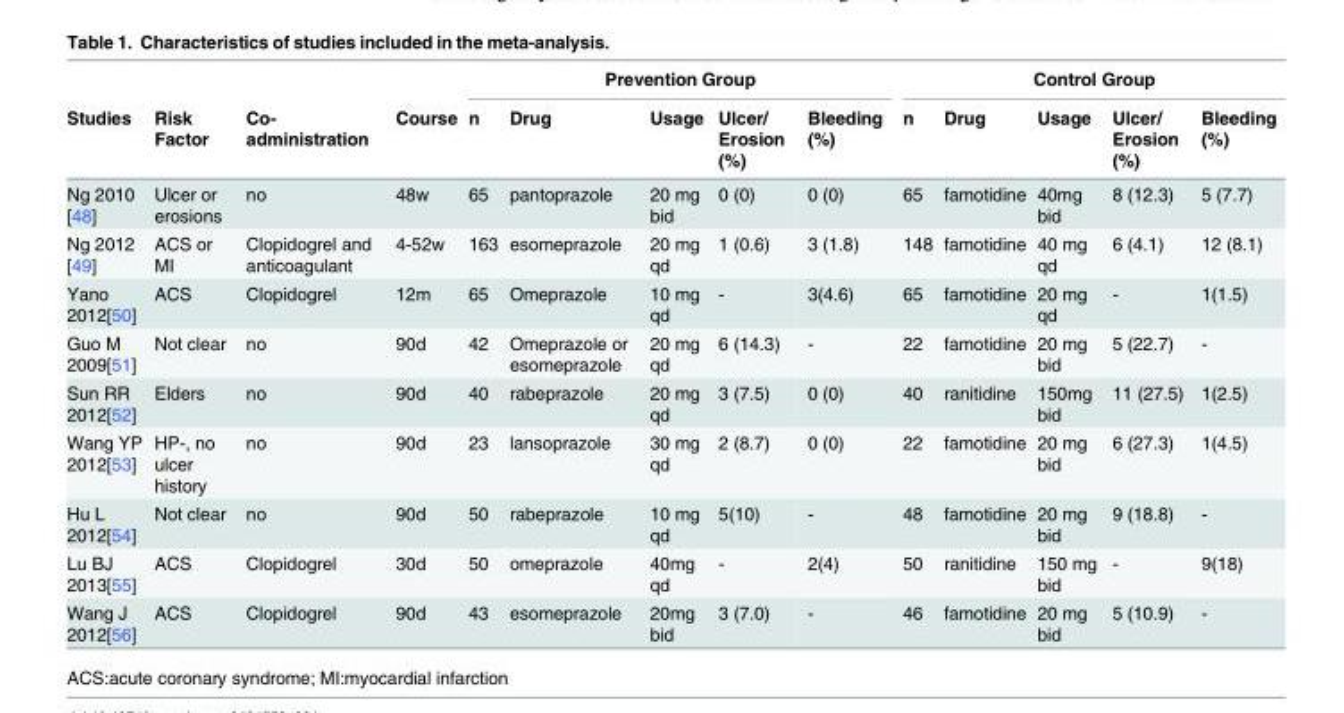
<table><thead><tr><td rowspan="2">Studies</td><td rowspan="2">Risk Factor</td><td rowspan="2">Co- administration</td><td rowspan="2">Course</td><td colspan="5">Prevention Group</td><td colspan="5">Control Group</td></tr><tr><td>n</td><td>Drug</td><td>Usage</td><td>Ulcer/ Erosion (%)</td><td>Bleeding (%)</td><td>n</td><td>Drug</td><td>Usage</td><td>Ulcer/ Erosion (%)</td><td>Bleeding (%)</td></tr></thead><tbody><tr><td>Ng 2010 [48]</td><td>Ulcer or erosions</td><td>no</td><td>48w</td><td>65</td><td>pantoprazole</td><td>20 mg bid</td><td>0 (0)</td><td>0 (0)</td><td>65</td><td>famotidine</td><td>40mg bid</td><td>8 (12.3)</td><td>5 (7.7)</td></tr><tr><td>Ng 2012 [49]</td><td>ACS or MI</td><td>Clopidogrel and anticoagulant</td><td>4-52w</td><td>163</td><td>esomeprazole</td><td>20 mg qd</td><td>1 (0.6)</td><td>3 (1.8)</td><td>148</td><td>famotidine</td><td>40 mg qd</td><td>6 (4.1)</td><td>12 (8.1)</td></tr><tr><td>Yano 2012[50]</td><td>ACS</td><td>Clopidogrel</td><td>12m</td><td>65</td><td>Omeprazole</td><td>10 mg qd</td><td>-</td><td>3(4.6)</td><td>65</td><td>famotidine</td><td>20 mg qd</td><td>-</td><td>1(1.5)</td></tr><tr><td>Guo M 2009[51]</td><td>Not clear</td><td>no</td><td>90d</td><td>42</td><td>Omeprazole or esomeprazole</td><td>20 mg qd</td><td>6 (14.3)</td><td>-</td><td>22</td><td>famotidine</td><td>20 mg bid</td><td>5 (22.7)</td><td>-</td></tr><tr><td>Sun RR 2012[52]</td><td>Elders</td><td>no</td><td>90d</td><td>40</td><td>rabeprazole</td><td>20 mg qd</td><td>3 (7.5)</td><td>0 (0)</td><td>40</td><td>ranitidine</td><td>150mg bid</td><td>11 (27.5)</td><td>1(2.5)</td></tr><tr><td>Wang YP 2012[53]</td><td>HP-, no ulcer history</td><td>no</td><td>90d</td><td>23</td><td>lansoprazole</td><td>30 mg qd</td><td>2 (8.7)</td><td>0 (0)</td><td>22</td><td>famotidine</td><td>20 mg bid</td><td>6 (27.3)</td><td>1(4.5)</td></tr><tr><td>Hu L 2012[54]</td><td>Not clear</td><td>no</td><td>90d</td><td>50</td><td>rabeprazole</td><td>10 mg qd</td><td>5(10)</td><td>-</td><td>48</td><td>famotidine</td><td>20 mg bid</td><td>9 (18.8)</td><td>-</td></tr><tr><td>Lu BJ 2013[55]</td><td>ACS</td><td>Clopidogrel</td><td>30d</td><td>50</td><td>omeprazole</td><td>40mg qd</td><td>-</td><td>2(4)</td><td>50</td><td>ranitidine</td><td>150 mg bid</td><td>-</td><td>9(18)</td></tr><tr><td>Wang J 2012[56]</td><td>ACS</td><td>Clopidogrel</td><td>90d</td><td>43</td><td>esomeprazole</td><td>20mg bid</td><td>3 (7.0)</td><td>-</td><td>46</td><td>famotidine</td><td>20 mg bid</td><td>5 (10.9)</td><td>-</td></tr></tbody></table>